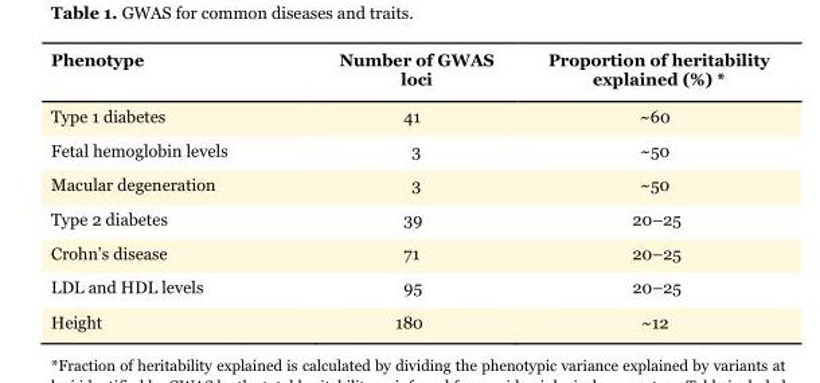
<table><thead><tr><td>Phenotype</td><td>Number of GWAS loci</td><td>Proportion of heritability explained (%) *</td></tr></thead><tbody><tr><td>Type 1 diabetes</td><td>41</td><td>~60</td></tr><tr><td>Fetal hemoglobin levels</td><td>3</td><td>~50</td></tr><tr><td>Macular degeneration</td><td>3</td><td>~50</td></tr><tr><td>Type 2 diabetes</td><td>39</td><td>20–25</td></tr><tr><td>Crohn’s disease</td><td>71</td><td>20–25</td></tr><tr><td>LDL and HDL levels</td><td>95</td><td>20–25</td></tr><tr><td>Height</td><td>180</td><td>~12</td></tr></tbody></table>